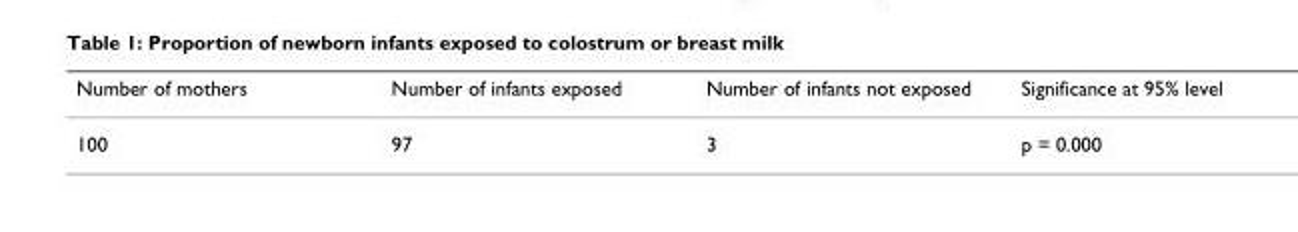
<table><thead><tr><td>Number of mothers</td><td>Number of infants exposed</td><td>Number of infants not exposed</td><td>Significance at 95% level</td></tr></thead><tbody><tr><td>100</td><td>97</td><td>3</td><td>p = 0.000</td></tr></tbody></table>